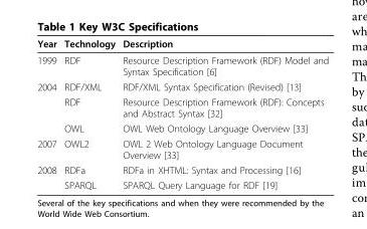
<table><thead><tr><td>Year</td><td>Technology</td><td>Description</td></tr></thead><tbody><tr><td>1999</td><td>RDF</td><td>Resource Description Framework (RDF) Model and Syntax Specification [6]</td></tr><tr><td rowspan="3">2004</td><td>RDF/XML</td><td>RDF/XML Syntax Specification (Revised) [13]</td></tr><tr><td>RDF</td><td>Resource Description Framework (RDF): Concepts and Abstract Syntax [32]</td></tr><tr><td>OWL</td><td>OWL Web Ontology Language Overview [33]</td></tr><tr><td>2007</td><td>OWL2</td><td>OWL 2 Web Ontology Language Document Overview [33]</td></tr><tr><td rowspan="2">2008</td><td>RDFa</td><td>RDFa in XHTML: Syntax and Processing [16]</td></tr><tr><td>SPARQL</td><td>SPARQL Query Language for RDF [19]</td></tr></tbody></table>